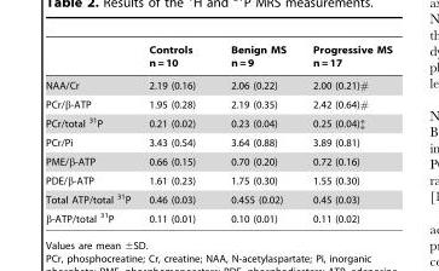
<table><thead><tr><td></td><td>Controls n = 10</td><td>Benign MS n = 9</td><td>Progressive MS n = 17</td></tr></thead><tbody><tr><td>NAA/Cr</td><td>2.19 (0.16)</td><td>2.06 (0.22)</td><td>2.00 (0.21)#</td></tr><tr><td>PCr/β-ATP</td><td>1.95 (0.28)</td><td>2.19 (0.35)</td><td>2.42 (0.64)#</td></tr><tr><td>PCr/total <sup>31</sup>P</td><td>0.21 (0.02)</td><td>0.23 (0.04)</td><td>0.25 (0.04)‡</td></tr><tr><td>PCr/Pi</td><td>3.43 (0.54)</td><td>3.64 (0.88)</td><td>3.89 (0.81)</td></tr><tr><td>PME/β-ATP</td><td>0.66 (0.15)</td><td>0.70 (0.20)</td><td>0.72 (0.16)</td></tr><tr><td>PDE/β-ATP</td><td>1.61 (0.23)</td><td>1.75 (0.30)</td><td>1.55 (0.30)</td></tr><tr><td>Total ATP/total <sup>31</sup>P</td><td>0.46 (0.03)</td><td>0.455 (0.02)</td><td>0.45 (0.03)</td></tr><tr><td>β-ATP/total <sup>31</sup>P</td><td>0.11 (0.01)</td><td>0.10 (0.01)</td><td>0.11 (0.02)</td></tr></tbody></table>